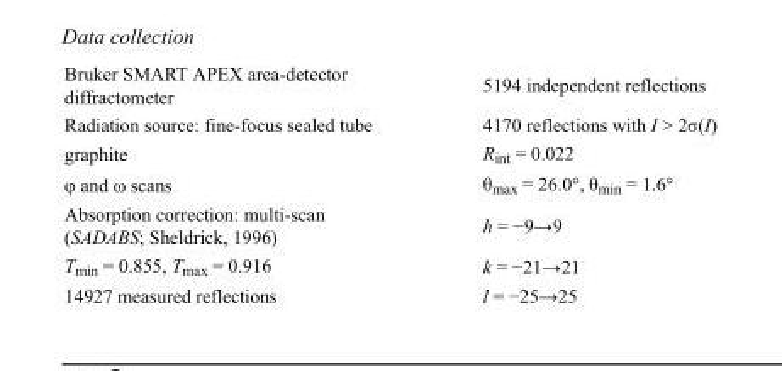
<table><tbody><tr><td>Bruker SMART APEX area-detector diffractometer</td><td>5194 independent reflections</td></tr><tr><td>Radiation source: fine-focus sealed tube</td><td>4170 reflections with I &gt; 2σ(I)</td></tr><tr><td>graphite</td><td>R<sub>int</sub> = 0.022</td></tr><tr><td>φ and ω scans</td><td>θ<sub>max</sub> = 26.0°, θ<sub>min</sub> = 1.6°</td></tr><tr><td>Absorption correction: multi-scan (SADABS; Sheldrick, 1996)</td><td>h = −9→9</td></tr><tr><td>T<sub>min</sub> = 0.855, T<sub>max</sub> = 0.916</td><td>k = −21→21</td></tr><tr><td>14927 measured reflections</td><td>l = −25→25</td></tr></tbody></table>